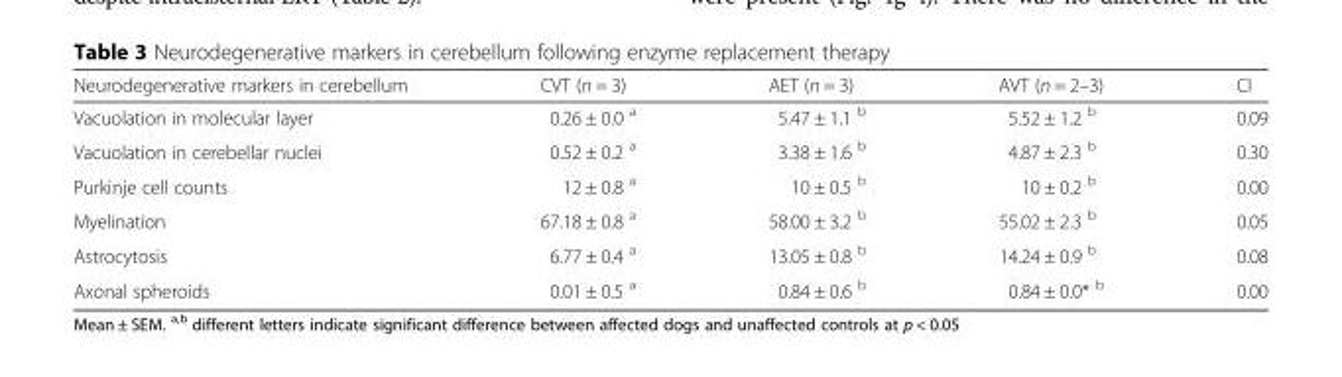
<table><thead><tr><td>Neurodegenerative markers in cerebellum</td><td>CVT (n = 3)</td><td>AET (n = 3)</td><td>AVT (n = 2–3)</td><td>CI</td></tr></thead><tbody><tr><td>Vacuolation in molecular layer</td><td>0.26 ± 0.0 <sup>a</sup></td><td>5.47 ± 1.1 <sup>b</sup></td><td>5.52 ± 1.2 <sup>b</sup></td><td>0.09</td></tr><tr><td>Vacuolation in cerebellar nuclei</td><td>0.52 ± 0.2 <sup>a</sup></td><td>3.38 ± 1.6 <sup>b</sup></td><td>4.87 ± 2.3 <sup>b</sup></td><td>0.30</td></tr><tr><td>Purkinje cell counts</td><td>12 ± 0.8 <sup>a</sup></td><td>10 ± 0.5 <sup>b</sup></td><td>10 ± 0.2 <sup>b</sup></td><td>0.00</td></tr><tr><td>Myelination</td><td>67.18 ± 0.8 <sup>a</sup></td><td>58.00 ± 3.2 <sup>b</sup></td><td>55.02 ± 2.3 <sup>b</sup></td><td>0.05</td></tr><tr><td>Astrocytosis</td><td>6.77 ± 0.4 <sup>a</sup></td><td>13.05 ± 0.8 <sup>b</sup></td><td>14.24 ± 0.9 <sup>b</sup></td><td>0.08</td></tr><tr><td>Axonal spheroids</td><td>0.01 ± 0.5 <sup>a</sup></td><td>0.84 ± 0.6 <sup>b</sup></td><td>0.84 ± 0.0* <sup>b</sup></td><td>0.00</td></tr></tbody></table>